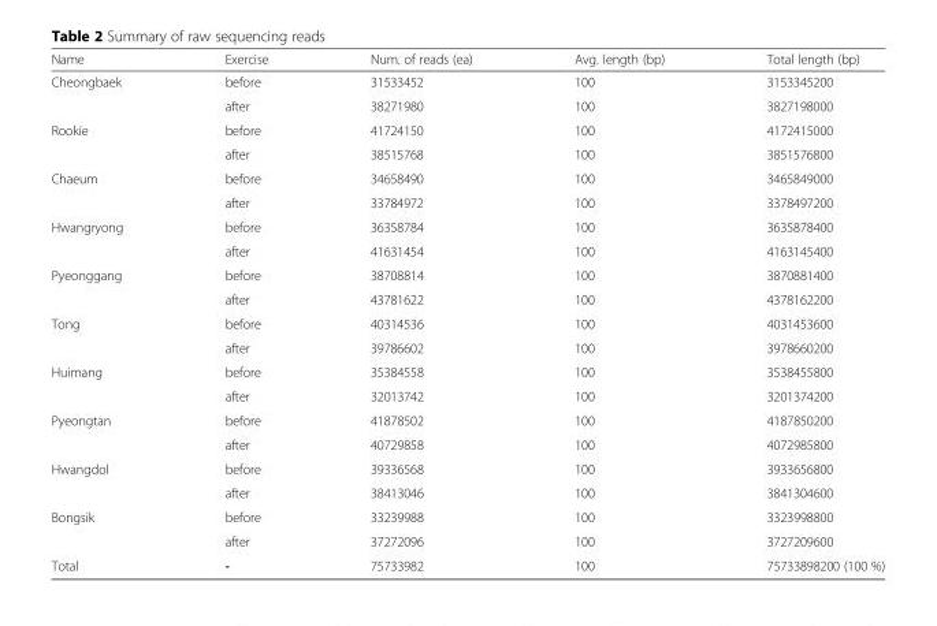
<table><thead><tr><td>Name</td><td>Exercise</td><td>Num. of reads (ea)</td><td>Avg. length (bp)</td><td>Total length (bp)</td></tr></thead><tbody><tr><td rowspan="2">Cheongbaek</td><td>before</td><td>31533452</td><td>100</td><td>3153345200</td></tr><tr><td>after</td><td>38271980</td><td>100</td><td>3827198000</td></tr><tr><td rowspan="2">Rookie</td><td>before</td><td>41724150</td><td>100</td><td>4172415000</td></tr><tr><td>after</td><td>38515768</td><td>100</td><td>3851576800</td></tr><tr><td rowspan="2">Chaeum</td><td>before</td><td>34658490</td><td>100</td><td>3465849000</td></tr><tr><td>after</td><td>33784972</td><td>100</td><td>3378497200</td></tr><tr><td rowspan="2">Hwangryong</td><td>before</td><td>36358784</td><td>100</td><td>3635878400</td></tr><tr><td>after</td><td>41631454</td><td>100</td><td>4163145400</td></tr><tr><td rowspan="2">Pyeonggang</td><td>before</td><td>38708814</td><td>100</td><td>3870881400</td></tr><tr><td>after</td><td>43781622</td><td>100</td><td>4378162200</td></tr><tr><td rowspan="2">Tong</td><td>before</td><td>40314536</td><td>100</td><td>4031453600</td></tr><tr><td>after</td><td>39786602</td><td>100</td><td>3978660200</td></tr><tr><td rowspan="2">Huimang</td><td>before</td><td>35384558</td><td>100</td><td>3538455800</td></tr><tr><td>after</td><td>32013742</td><td>100</td><td>3201374200</td></tr><tr><td rowspan="2">Pyeongtan</td><td>before</td><td>41878502</td><td>100</td><td>4187850200</td></tr><tr><td>after</td><td>40729858</td><td>100</td><td>4072985800</td></tr><tr><td rowspan="2">Hwangdol</td><td>before</td><td>39336568</td><td>100</td><td>3933656800</td></tr><tr><td>after</td><td>38413046</td><td>100</td><td>3841304600</td></tr><tr><td rowspan="2">Bongsik</td><td>before</td><td>33239988</td><td>100</td><td>3323998800</td></tr><tr><td>after</td><td>37272096</td><td>100</td><td>3727209600</td></tr><tr><td>Total</td><td>-</td><td>75733982</td><td>100</td><td>75733898200 (100 %)</td></tr></tbody></table>